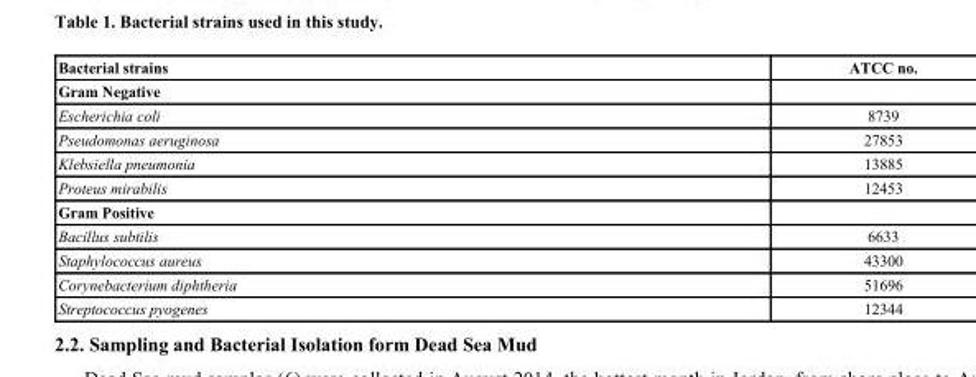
<table><thead><tr><td>Bacterial strains</td><td>ATCC no.</td></tr></thead><tbody><tr><td colspan="2">Gram Negative</td></tr><tr><td>Escherichia coli</td><td>8739</td></tr><tr><td>Pseudomonas aeruginosa</td><td>27853</td></tr><tr><td>Klebsiella pneumonia</td><td>13885</td></tr><tr><td>Proteus mirabilis</td><td>12453</td></tr><tr><td colspan="2">Gram Positive</td></tr><tr><td>Bacillus subtilis</td><td>6633</td></tr><tr><td>Staphylococcus aureus</td><td>43300</td></tr><tr><td>Corynebacterium diphtheria</td><td>51696</td></tr><tr><td>Streptococcus pyogenes</td><td>12344</td></tr></tbody></table>